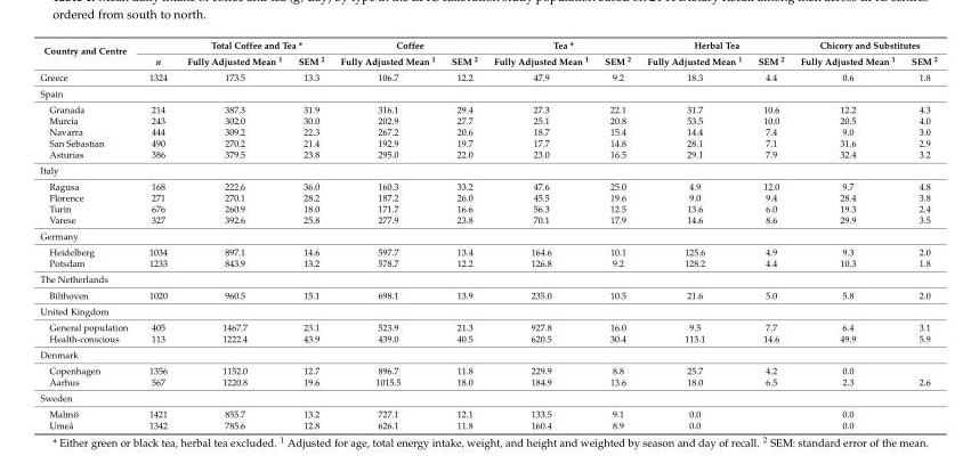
<table><thead><tr><td rowspan="2">Country and Centre</td><td rowspan="2">n</td><td colspan="2">Total Coffee and Tea *</td><td colspan="2">Coffee</td><td colspan="2">Tea *</td><td colspan="2">Herbal Tea</td><td colspan="2">Chicory and Substitutes</td></tr><tr><td>Fully Adjusted Mean <sup>1</sup></td><td>SEM <sup>2</sup></td><td>Fully Adjusted Mean <sup>1</sup></td><td>SEM <sup>2</sup></td><td>Fully Adjusted Mean <sup>1</sup></td><td>SEM <sup>2</sup></td><td>Fully Adjusted Mean <sup>1</sup></td><td>SEM <sup>2</sup></td><td>Fully Adjusted Mean <sup>1</sup></td><td>SEM <sup>2</sup></td></tr></thead><tbody><tr><td>Greece</td><td>1324</td><td>173.5</td><td>13.3</td><td>106.7</td><td>12.2</td><td>47.9</td><td>9.2</td><td>18.3</td><td>4.4</td><td>0.6</td><td>1.8</td></tr><tr><td colspan="12">Spain</td></tr><tr><td>Granada</td><td>214</td><td>387.3</td><td>31.9</td><td>316.1</td><td>29.4</td><td>27.3</td><td>22.1</td><td>31.7</td><td>10.6</td><td>12.2</td><td>4.3</td></tr><tr><td>Murcia</td><td>243</td><td>302.0</td><td>30.0</td><td>202.9</td><td>27.7</td><td>25.1</td><td>20.8</td><td>53.5</td><td>10.0</td><td>20.5</td><td>4.0</td></tr><tr><td>Navarra</td><td>444</td><td>309.2</td><td>22.3</td><td>267.2</td><td>20.6</td><td>18.7</td><td>15.4</td><td>14.4</td><td>7.4</td><td>9.0</td><td>3.0</td></tr><tr><td>San Sebastian</td><td>490</td><td>270.2</td><td>21.4</td><td>192.9</td><td>19.7</td><td>17.7</td><td>14.8</td><td>28.1</td><td>7.1</td><td>31.6</td><td>2.9</td></tr><tr><td>Asturias</td><td>386</td><td>379.5</td><td>23.8</td><td>295.0</td><td>22.0</td><td>23.0</td><td>16.5</td><td>29.1</td><td>7.9</td><td>32.4</td><td>3.2</td></tr><tr><td colspan="12">Italy</td></tr><tr><td>Ragusa</td><td>168</td><td>222.6</td><td>36.0</td><td>160.3</td><td>33.2</td><td>47.6</td><td>25.0</td><td>4.9</td><td>12.0</td><td>9.7</td><td>4.8</td></tr><tr><td>Florence</td><td>271</td><td>270.1</td><td>28.2</td><td>187.2</td><td>26.0</td><td>45.5</td><td>19.6</td><td>9.0</td><td>9.4</td><td>28.4</td><td>3.8</td></tr><tr><td>Turin</td><td>676</td><td>260.9</td><td>18.0</td><td>171.7</td><td>16.6</td><td>56.3</td><td>12.5</td><td>13.6</td><td>6.0</td><td>19.3</td><td>2.4</td></tr><tr><td>Varese</td><td>327</td><td>392.6</td><td>25.8</td><td>277.9</td><td>23.8</td><td>70.1</td><td>17.9</td><td>14.6</td><td>8.6</td><td>29.9</td><td>3.5</td></tr><tr><td colspan="12">Germany</td></tr><tr><td>Heidelberg</td><td>1034</td><td>897.1</td><td>14.6</td><td>597.7</td><td>13.4</td><td>164.6</td><td>10.1</td><td>125.6</td><td>4.9</td><td>9.3</td><td>2.0</td></tr><tr><td>Potsdam</td><td>1233</td><td>843.9</td><td>13.2</td><td>578.7</td><td>12.2</td><td>126.8</td><td>9.2</td><td>128.2</td><td>4.4</td><td>10.3</td><td>1.8</td></tr><tr><td colspan="12">The Netherlands</td></tr><tr><td>Bilthoven</td><td>1020</td><td>960.5</td><td>15.1</td><td>698.1</td><td>13.9</td><td>235.0</td><td>10.5</td><td>21.6</td><td>5.0</td><td>5.8</td><td>2.0</td></tr><tr><td colspan="12">United Kingdom</td></tr><tr><td>General population</td><td>405</td><td>1467.7</td><td>23.1</td><td>523.9</td><td>21.3</td><td>927.8</td><td>16.0</td><td>9.5</td><td>7.7</td><td>6.4</td><td>3.1</td></tr><tr><td>Health-conscious</td><td>113</td><td>1222.4</td><td>43.9</td><td>439.0</td><td>40.5</td><td>620.5</td><td>30.4</td><td>113.1</td><td>14.6</td><td>49.9</td><td>5.9</td></tr><tr><td colspan="12">Denmark</td></tr><tr><td>Copenhagen</td><td>1356</td><td>1152.0</td><td>12.7</td><td>896.7</td><td>11.8</td><td>229.9</td><td>8.8</td><td>25.7</td><td>4.2</td><td>0.0</td><td></td></tr><tr><td>Aarhus</td><td>567</td><td>1220.8</td><td>19.6</td><td>1015.5</td><td>18.0</td><td>184.9</td><td>13.6</td><td>18.0</td><td>6.5</td><td>2.3</td><td>2.6</td></tr><tr><td colspan="12">Sweden</td></tr><tr><td>Malmö</td><td>1421</td><td>855.7</td><td>13.2</td><td>727.1</td><td>12.1</td><td>133.5</td><td>9.1</td><td>0.0</td><td></td><td>0.0</td><td></td></tr><tr><td>Umeå</td><td>1342</td><td>785.6</td><td>12.8</td><td>626.1</td><td>11.8</td><td>160.4</td><td>8.9</td><td>0.0</td><td></td><td>0.0</td><td></td></tr></tbody></table>